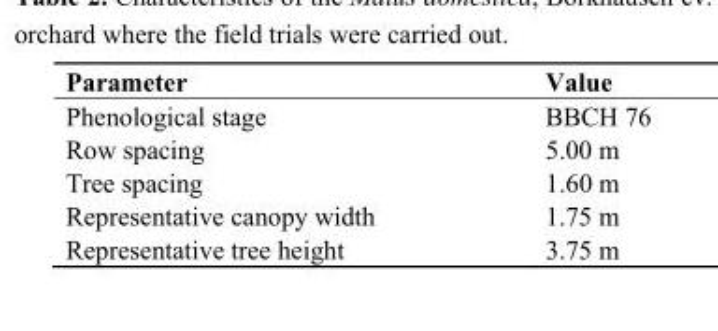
<table><thead><tr><td>Parameter</td><td>Value</td></tr></thead><tbody><tr><td>Phenological stage</td><td>BBCH 76</td></tr><tr><td>Row spacing</td><td>5.00 m</td></tr><tr><td>Tree spacing</td><td>1.60 m</td></tr><tr><td>Representative canopy width</td><td>1.75 m</td></tr><tr><td>Representative tree height</td><td>3.75 m</td></tr></tbody></table>